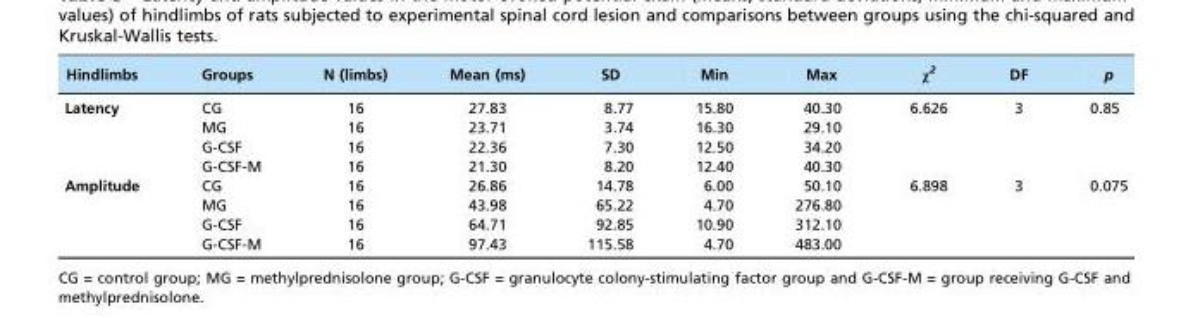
<table><thead><tr><td>Hindlimbs</td><td>Groups</td><td>N (limbs)</td><td>Mean (ms)</td><td>SD</td><td>Min</td><td>Max</td><td>χ<sup>2</sup></td><td>DF</td><td>p</td></tr></thead><tbody><tr><td rowspan="4">Latency</td><td>CG</td><td>16</td><td>27.83</td><td>8.77</td><td>15.80</td><td>40.30</td><td rowspan="4">6.626</td><td rowspan="4">3</td><td rowspan="4">0.85</td></tr><tr><td>MG</td><td>16</td><td>23.71</td><td>3.74</td><td>16.30</td><td>29.10</td></tr><tr><td>G-CSF</td><td>16</td><td>22.36</td><td>7.30</td><td>12.50</td><td>34.20</td></tr><tr><td>G-CSF-M</td><td>16</td><td>21.30</td><td>8.20</td><td>12.40</td><td>40.30</td></tr><tr><td rowspan="4">Amplitude</td><td>CG</td><td>16</td><td>26.86</td><td>14.78</td><td>6.00</td><td>50.10</td><td rowspan="4">6.898</td><td rowspan="4">3</td><td rowspan="4">0.075</td></tr><tr><td>MG</td><td>16</td><td>43.98</td><td>65.22</td><td>4.70</td><td>276.80</td></tr><tr><td>G-CSF</td><td>16</td><td>64.71</td><td>92.85</td><td>10.90</td><td>312.10</td></tr><tr><td>G-CSF-M</td><td>16</td><td>97.43</td><td>115.58</td><td>4.70</td><td>483.00</td></tr></tbody></table>